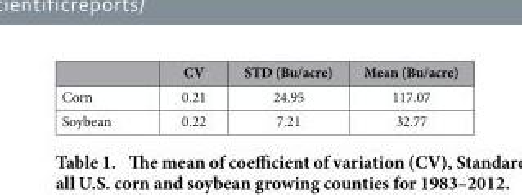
<table><thead><tr><td></td><td>CV</td><td>STD (Bu/acre)</td><td>Mean (Bu/acre)</td></tr></thead><tbody><tr><td>Corn</td><td>0.21</td><td>24.95</td><td>117.07</td></tr><tr><td>Soybean</td><td>0.22</td><td>7.21</td><td>32.77</td></tr></tbody></table>